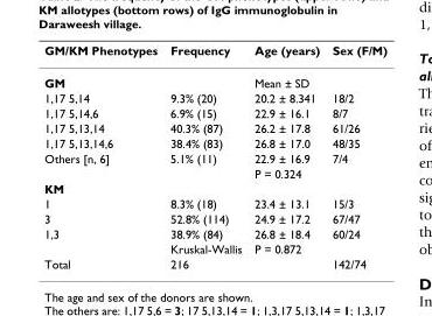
<table><thead><tr><td>GM/KM Phenotypes</td><td>Frequency</td><td>Age (years)</td><td>Sex (F/M)</td></tr></thead><tbody><tr><td>GM</td><td></td><td>Mean ± SD</td><td></td></tr><tr><td>1,17 5,14</td><td>9.3% (20)</td><td>20.2 ± 8.341</td><td>18/2</td></tr><tr><td>1,17 5,14,6</td><td>6.9% (15)</td><td>22.9 ± 16.1</td><td>8/7</td></tr><tr><td>1,17 5,13,14</td><td>40.3% (87)</td><td>26.2 ± 17.8</td><td>61/26</td></tr><tr><td>1,17 5,13,14,6</td><td>38.4% (83)</td><td>26.8 ± 17.0</td><td>48/35</td></tr><tr><td rowspan="2">Others [n, 6]</td><td>5.1% (11)</td><td>22.9 ± 16.9</td><td>7/4</td></tr><tr><td></td><td>P = 0.324</td><td></td></tr><tr><td colspan="4">KM</td></tr><tr><td>1</td><td>8.3% (18)</td><td>23.4 ± 13.1</td><td>15/3</td></tr><tr><td>3</td><td>52.8% (114)</td><td>24.9 ± 17.2</td><td>67/47</td></tr><tr><td rowspan="2">1,3</td><td>38.9% (84)</td><td>26.8 ± 18.4</td><td>60/24</td></tr><tr><td>Kruskal-Wallis</td><td>P = 0.872</td><td></td></tr><tr><td>Total</td><td>216</td><td></td><td>142/74</td></tr></tbody></table>